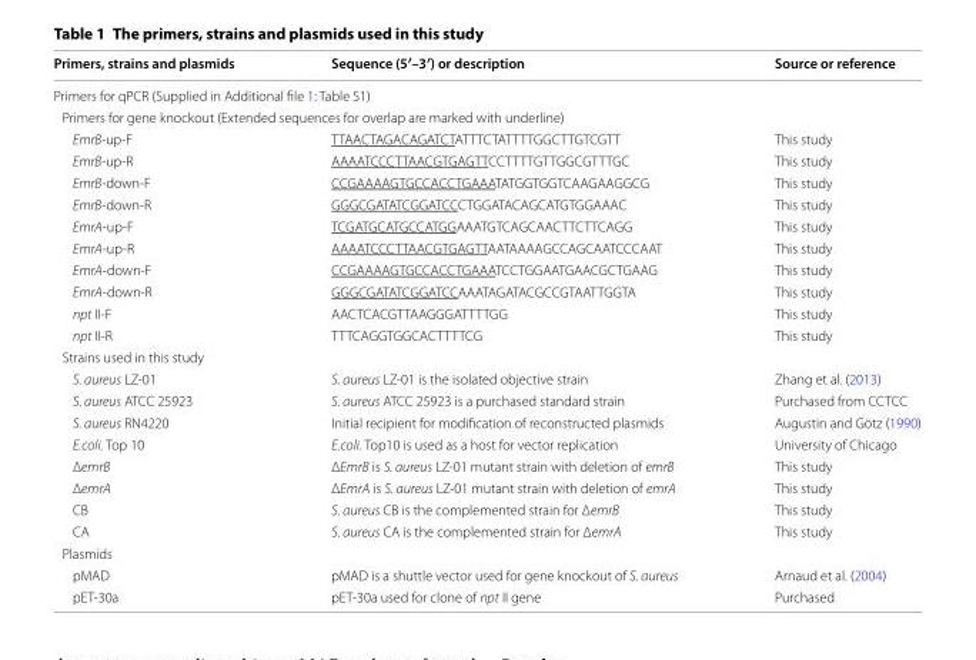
<table><thead><tr><td>Primers, strains and plasmids</td><td>Sequence (5′–3′) or description</td><td>Source or reference</td></tr></thead><tbody><tr><td colspan="3">Primers for qPCR (Supplied in Additional file 1: Table S1)</td></tr><tr><td colspan="3">Primers for gene knockout (Extended sequences for overlap are marked with underline)</td></tr><tr><td>EmrB-up-F</td><td>TTAACTAGACAGATCTATTTCTATTTTGGCTTGTCGTT</td><td>This study</td></tr><tr><td>EmrB-up-R</td><td>AAAATCCCTTAACGTGAGTTCCTTTTGTTGGCGTTTGC</td><td>This study</td></tr><tr><td>EmrB-down-F</td><td>CCGAAAAGTGCCACCTGAAATATGGTGGTCAAGAAGGCG</td><td>This study</td></tr><tr><td>EmrB-down-R</td><td>GGGCGATATCGGATCCCTGGATACAGCATGTGGAAAC</td><td>This study</td></tr><tr><td>EmrA-up-F</td><td>TCGATGCATGCCATGGAAATGTCAGCAACTTCTTCAGG</td><td>This study</td></tr><tr><td>EmrA-up-R</td><td>AAAATCCCTTAACGTGAGTTAATAAAAGCCAGCAATCCCAAT</td><td>This study</td></tr><tr><td>EmrA-down-F</td><td>CCGAAAAGTGCCACCTGAAATCCTGGAATGAACGCTGAAG</td><td>This study</td></tr><tr><td>EmrA-down-R</td><td>GGGCGATATCGGATCCAAATAGATACGCCGTAATTGGTA</td><td>This study</td></tr><tr><td>npt II-F</td><td>AACTCACGTTAAGGGATTTTGG</td><td>This study</td></tr><tr><td>npt II-R</td><td>TTTCAGGTGGCACTTTTCG</td><td>This study</td></tr><tr><td colspan="3">Strains used in this study</td></tr><tr><td>S. aureus LZ-01</td><td>S. aureus LZ-01 is the isolated objective strain</td><td>Zhang et al. (2013)</td></tr><tr><td>S. aureus ATCC 25923</td><td>S. aureus ATCC 25923 is a purchased standard strain</td><td>Purchased from CCTCC</td></tr><tr><td>S. aureus RN4220</td><td>Initial recipient for modification of reconstructed plasmids</td><td>Augustin and Götz (1990)</td></tr><tr><td>E.coli. Top 10</td><td>E.coli. Top10 is used as a host for vector replication</td><td>University of Chicago</td></tr><tr><td>ΔemrB</td><td>ΔEmrB is S. aureus LZ-01 mutant strain with deletion of emrB</td><td>This study</td></tr><tr><td>ΔemrA</td><td>ΔEmrA is S. aureus LZ-01 mutant strain with deletion of emrA</td><td>This study</td></tr><tr><td>CB</td><td>S. aureus CB is the complemented strain for ΔemrB</td><td>This study</td></tr><tr><td>CA</td><td>S. aureus CA is the complemented strain for ΔemrA</td><td>This study</td></tr><tr><td colspan="3">Plasmids</td></tr><tr><td>pMAD</td><td>pMAD is a shuttle vector used for gene knockout of S. aureus</td><td>Arnaud et al. (2004)</td></tr><tr><td>pET-30a</td><td>pET-30a used for clone of npt II gene</td><td>Purchased</td></tr></tbody></table>